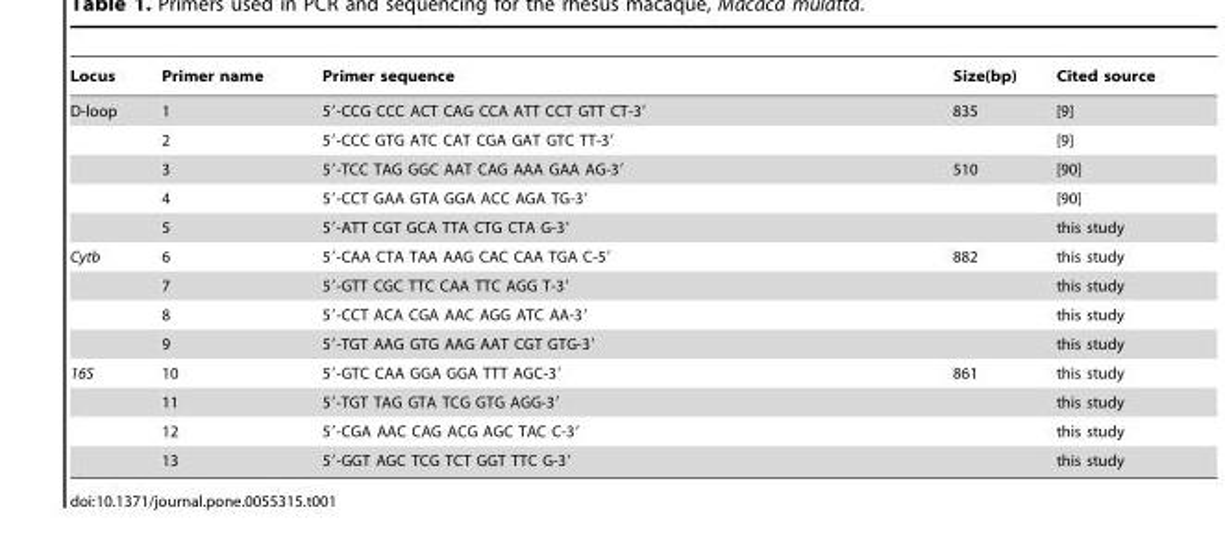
<table><thead><tr><td>Locus</td><td>Primer name</td><td>Primer sequence</td><td>Size(bp)</td><td>Cited source</td></tr></thead><tbody><tr><td rowspan="5">D-loop</td><td>1</td><td>5′-CCG CCC ACT CAG CCA ATT CCT GTT CT-3′</td><td>835</td><td>[9]</td></tr><tr><td>2</td><td>5′-CCC GTG ATC CAT CGA GAT GTC TT-3′</td><td></td><td>[9]</td></tr><tr><td>3</td><td>5′-TCC TAG GGC AAT CAG AAA GAA AG-3′</td><td>510</td><td>[90]</td></tr><tr><td>4</td><td>5′-CCT GAA GTA GGA ACC AGA TG-3′</td><td></td><td>[90]</td></tr><tr><td>5</td><td>5′-ATT CGT GCA TTA CTG CTA G-3′</td><td></td><td>this study</td></tr><tr><td rowspan="4">Cytb</td><td>6</td><td>5′-CAA CTA TAA AAG CAC CAA TGA C-5′</td><td>882</td><td>this study</td></tr><tr><td>7</td><td>5′-GTT CGC TTC CAA TTC AGG T-3′</td><td></td><td>this study</td></tr><tr><td>8</td><td>5′-CCT ACA CGA AAC AGG ATC AA-3′</td><td></td><td>this study</td></tr><tr><td>9</td><td>5′-TGT AAG GTG AAG AAT CGT GTG-3′</td><td></td><td>this study</td></tr><tr><td rowspan="4">16S</td><td>10</td><td>5′-GTC CAA GGA GGA TTT AGC-3′</td><td>861</td><td>this study</td></tr><tr><td>11</td><td>5′-TGT TAG GTA TCG GTG AGG-3′</td><td></td><td>this study</td></tr><tr><td>12</td><td>5′-CGA AAC CAG ACG AGC TAC C-3′</td><td></td><td>this study</td></tr><tr><td>13</td><td>5′-GGT AGC TCG TCT GGT TTC G-3′</td><td></td><td>this study</td></tr></tbody></table>